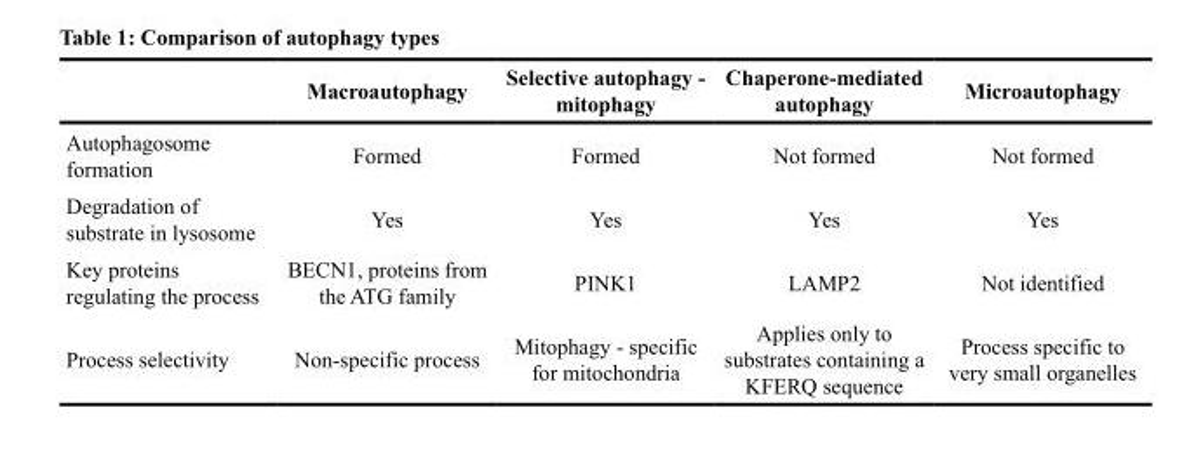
<table><thead><tr><td></td><td>Macroautophagy</td><td>Selective autophagy - mitophagy</td><td>Chaperone-mediated autophagy</td><td>Microautophagy</td></tr></thead><tbody><tr><td>Autophagosome formation</td><td>Formed</td><td>Formed</td><td>Not formed</td><td>Not formed</td></tr><tr><td>Degradation of substrate in lysosome</td><td>Yes</td><td>Yes</td><td>Yes</td><td>Yes</td></tr><tr><td>Key proteins regulating the process</td><td>BECN1, proteins from the ATG family</td><td>PINK1</td><td>LAMP2</td><td>Not identified</td></tr><tr><td>Process selectivity</td><td>Non-specific process</td><td>Mitophagy - specific for mitochondria</td><td>Applies only to substrates containing a KFERQ sequence</td><td>Process specific to very small organelles</td></tr></tbody></table>